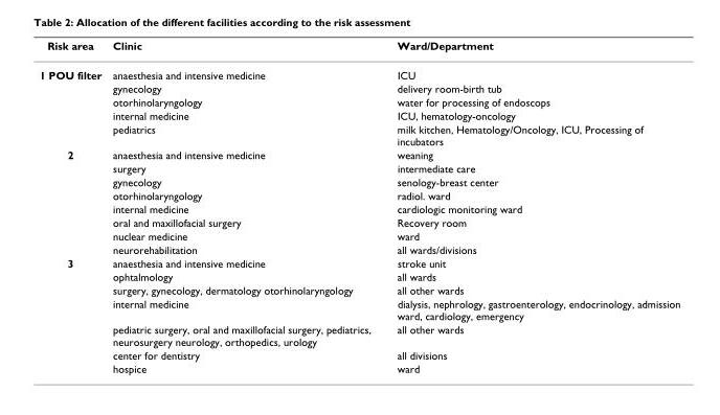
<table><thead><tr><td>Risk area</td><td>Clinic</td><td>Ward/Department</td></tr></thead><tbody><tr><td rowspan="5">1 POU filter</td><td>anaesthesia and intensive medicine</td><td>ICU</td></tr><tr><td>gynecology</td><td>delivery room-birth tub</td></tr><tr><td>otorhinolaryngology</td><td>water for processing of endoscops</td></tr><tr><td>internal medicine</td><td>ICU, hematology-oncology</td></tr><tr><td>pediatrics</td><td>milk kitchen, Hematology/Oncology, ICU, Processing of incubators</td></tr><tr><td rowspan="8">2</td><td>anaesthesia and intensive medicine</td><td>weaning</td></tr><tr><td>surgery</td><td>intermediate care</td></tr><tr><td>gynecology</td><td>senology-breast center</td></tr><tr><td>otorhinolaryngology</td><td>radiol. ward</td></tr><tr><td>internal medicine</td><td>cardiologic monitoring ward</td></tr><tr><td>oral and maxillofacial surgery</td><td>Recovery room</td></tr><tr><td>nuclear medicine</td><td>ward</td></tr><tr><td>neurorehabilitation</td><td>all wards/divisions</td></tr><tr><td rowspan="7">3</td><td>anaesthesia and intensive medicine</td><td>stroke unit</td></tr><tr><td>ophtalmology</td><td>all wards</td></tr><tr><td>surgery, gynecology, dermatology otorhinolaryngology</td><td>all other wards</td></tr><tr><td>internal medicine</td><td>dialysis, nephrology, gastroenterology, endocrinology, admission ward, cardiology, emergency</td></tr><tr><td>pediatric surgery, oral and maxillofacial surgery, pediatrics, neurosurgery neurology, orthopedics, urology</td><td>all other wards</td></tr><tr><td>center for dentistry</td><td>all divisions</td></tr><tr><td>hospice</td><td>ward</td></tr></tbody></table>